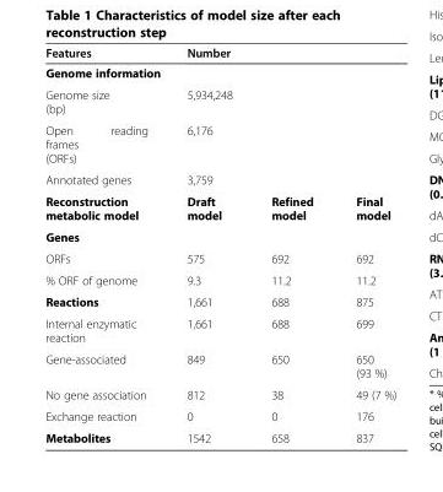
<table><thead><tr><td>Features</td><td>Number</td><td></td><td></td></tr></thead><tbody><tr><td colspan="4">Genome information</td></tr><tr><td>Genome size (bp)</td><td>5,934,248</td><td></td><td></td></tr><tr><td>Open reading frames (ORFs)</td><td>6,176</td><td></td><td></td></tr><tr><td>Annotated genes</td><td>3,759</td><td></td><td></td></tr><tr><td>Reconstruction metabolic model</td><td>Draft model</td><td>Refined model</td><td>Final model</td></tr><tr><td colspan="4">Genes</td></tr><tr><td>ORFs</td><td>575</td><td>692</td><td>692</td></tr><tr><td>% ORF of genome</td><td>9.3</td><td>11.2</td><td>11.2</td></tr><tr><td>Reactions</td><td>1,661</td><td>688</td><td>875</td></tr><tr><td>Internal enzymatic reaction</td><td>1,661</td><td>688</td><td>699</td></tr><tr><td>Gene-associated</td><td>849</td><td>650</td><td>650 (93 %)</td></tr><tr><td>No gene association</td><td>812</td><td>38</td><td>49 (7 %)</td></tr><tr><td>Exchange reaction</td><td>0</td><td>0</td><td>176</td></tr><tr><td>Metabolites</td><td>1542</td><td>658</td><td>837</td></tr></tbody></table>